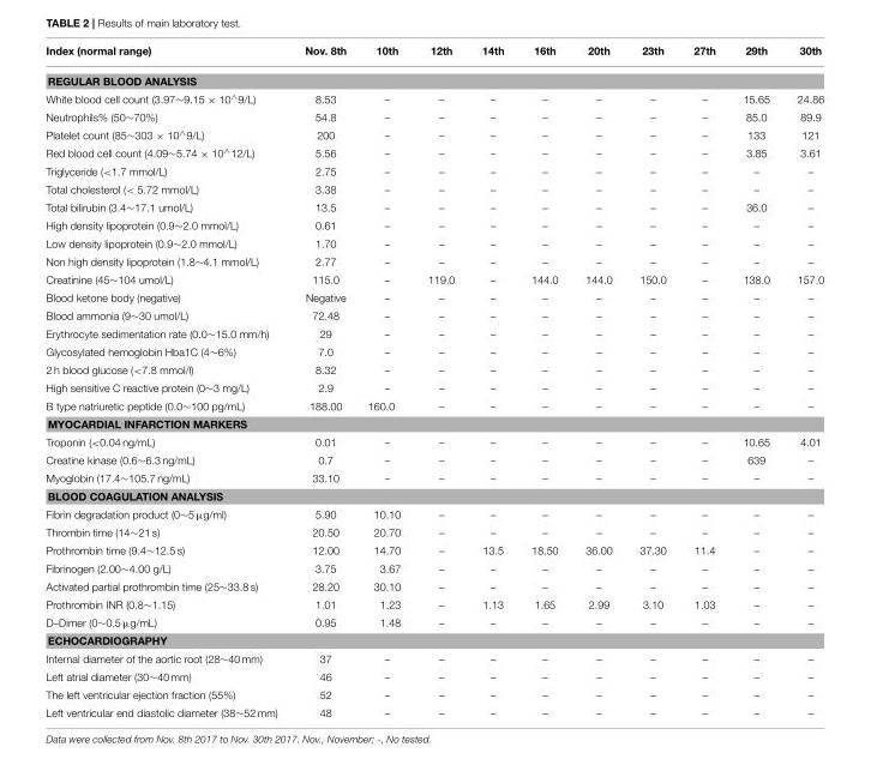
<table><thead><tr><td>Index (normal range)</td><td>Nov. 8th</td><td>10th</td><td>12th</td><td>14th</td><td>16th</td><td>20th</td><td>23th</td><td>27th</td><td>29th</td><td>30th</td></tr></thead><tbody><tr><td colspan="11">REGULAR BLOOD ANALYSIS</td></tr><tr><td>White blood cell count (3.97∼9.15 × 10∧9/L)</td><td>8.53</td><td>–</td><td>–</td><td>–</td><td>–</td><td>–</td><td>–</td><td>–</td><td>15.65</td><td>24.86</td></tr><tr><td>Neutrophils% (50∼70%)</td><td>54.8</td><td>–</td><td>–</td><td>–</td><td>–</td><td>–</td><td>–</td><td>–</td><td>85.0</td><td>89.9</td></tr><tr><td>Platelet count (85∼303 × 10∧9/L)</td><td>200</td><td>–</td><td>–</td><td>–</td><td>–</td><td>–</td><td>–</td><td>–</td><td>133</td><td>121</td></tr><tr><td>Red blood cell count (4.09∼5.74 × 10∧12/L)</td><td>5.56</td><td>–</td><td>–</td><td>–</td><td>–</td><td>–</td><td>–</td><td>–</td><td>3.85</td><td>3.61</td></tr><tr><td>Triglyceride (&lt;1.7 mmol/L)</td><td>2.75</td><td>–</td><td>–</td><td>–</td><td>–</td><td>–</td><td>–</td><td>–</td><td>–</td><td>–</td></tr><tr><td>Total cholesterol (&lt; 5.72 mmol/L)</td><td>3.38</td><td>–</td><td>–</td><td>–</td><td>–</td><td>–</td><td>–</td><td>–</td><td>–</td><td>–</td></tr><tr><td>Total bilirubin (3.4∼17.1 umol/L)</td><td>13.5</td><td>–</td><td>–</td><td>–</td><td>–</td><td>–</td><td>–</td><td>–</td><td>36.0</td><td>–</td></tr><tr><td>High density lipoprotein (0.9∼2.0 mmol/L)</td><td>0.61</td><td>–</td><td>–</td><td>–</td><td>–</td><td>–</td><td>–</td><td>–</td><td>–</td><td>–</td></tr><tr><td>Low density lipoprotein (0.9∼2.0 mmol/L)</td><td>1.70</td><td>–</td><td>–</td><td>–</td><td>–</td><td>–</td><td>–</td><td>–</td><td>–</td><td>–</td></tr><tr><td>Non high density lipoprotein (1.8∼4.1 mmol/L)</td><td>2.77</td><td>–</td><td>–</td><td>–</td><td>–</td><td>–</td><td>–</td><td>–</td><td>–</td><td>–</td></tr><tr><td>Creatinine (45∼104 umol/L)</td><td>115.0</td><td>–</td><td>119.0</td><td>–</td><td>144.0</td><td>144.0</td><td>150.0</td><td>–</td><td>138.0</td><td>157.0</td></tr><tr><td>Blood ketone body (negative)</td><td>Negative</td><td>–</td><td>–</td><td>–</td><td>–</td><td>–</td><td>–</td><td>–</td><td>–</td><td>–</td></tr><tr><td>Blood ammonia (9∼30 umol/L)</td><td>72.48</td><td>–</td><td>–</td><td>–</td><td>–</td><td>–</td><td>–</td><td>–</td><td>–</td><td>–</td></tr><tr><td>Erythrocyte sedimentation rate (0.0∼15.0 mm/h)</td><td>29</td><td>–</td><td>–</td><td>–</td><td>–</td><td>–</td><td>–</td><td>–</td><td>–</td><td>–</td></tr><tr><td>Glycosylated hemoglobin Hba1C (4∼6%)</td><td>7.0</td><td>–</td><td>–</td><td>–</td><td>–</td><td>–</td><td>–</td><td>–</td><td>–</td><td>–</td></tr><tr><td>2 h blood glucose (&lt;7.8 mmol/l)</td><td>8.32</td><td>–</td><td>–</td><td>–</td><td>–</td><td>–</td><td>–</td><td>–</td><td>–</td><td>–</td></tr><tr><td>High sensitive C reactive protein (0∼3 mg/L)</td><td>2.9</td><td>–</td><td>–</td><td>–</td><td>–</td><td>–</td><td>–</td><td>–</td><td>–</td><td>–</td></tr><tr><td>B type natriuretic peptide (0.0∼100 pg/mL)</td><td>188.00</td><td>160.0</td><td>–</td><td>–</td><td>–</td><td>–</td><td>–</td><td>–</td><td>–</td><td>–</td></tr><tr><td colspan="11">MYOCARDIAL INFARCTION MARKERS</td></tr><tr><td>Troponin (&lt;0.04 ng/mL)</td><td>0.01</td><td>–</td><td>–</td><td>–</td><td>–</td><td>–</td><td>–</td><td>–</td><td>10.65</td><td>4.01</td></tr><tr><td>Creatine kinase (0.6∼6.3 ng/mL)</td><td>0.7</td><td>–</td><td>–</td><td>–</td><td>–</td><td>–</td><td>–</td><td>–</td><td>639</td><td>–</td></tr><tr><td>Myoglobin (17.4∼105.7 ng/mL)</td><td>33.10</td><td>–</td><td>–</td><td>–</td><td>–</td><td>–</td><td>–</td><td>–</td><td>–</td><td>–</td></tr><tr><td colspan="11">BLOOD COAGULATION ANALYSIS</td></tr><tr><td>Fibrin degradation product (0∼5 µg/ml)</td><td>5.90</td><td>10.10</td><td>–</td><td>–</td><td>–</td><td>–</td><td>–</td><td>–</td><td>–</td><td>–</td></tr><tr><td>Thrombin time (14∼21 s)</td><td>20.50</td><td>20.70</td><td>–</td><td>–</td><td>–</td><td>–</td><td>–</td><td>–</td><td>–</td><td>–</td></tr><tr><td>Prothrombin time (9.4∼12.5 s)</td><td>12.00</td><td>14.70</td><td>–</td><td>13.5</td><td>18.50</td><td>36.00</td><td>37.30</td><td>11.4</td><td>–</td><td>–</td></tr><tr><td>Fibrinogen (2.00∼4.00 g/L)</td><td>3.75</td><td>3.67</td><td>–</td><td>–</td><td>–</td><td>–</td><td>–</td><td>–</td><td>–</td><td>–</td></tr><tr><td>Activated partial prothrombin time (25∼33.8 s)</td><td>28.20</td><td>30.10</td><td>–</td><td>–</td><td>–</td><td>–</td><td>–</td><td>–</td><td>–</td><td>–</td></tr><tr><td>Prothrombin INR (0.8∼1.15)</td><td>1.01</td><td>1.23</td><td>–</td><td>1.13</td><td>1.65</td><td>2.99</td><td>3.10</td><td>1.03</td><td>–</td><td>–</td></tr><tr><td>D–Dimer (0∼0.5 µg/mL)</td><td>0.95</td><td>1.48</td><td>–</td><td>–</td><td>–</td><td>–</td><td>–</td><td>–</td><td>–</td><td>–</td></tr><tr><td colspan="11">ECHOCARDIOGRAPHY</td></tr><tr><td>Internal diameter of the aortic root (28∼40 mm)</td><td>37</td><td>–</td><td>–</td><td>–</td><td>–</td><td>–</td><td>–</td><td>–</td><td>–</td><td>–</td></tr><tr><td>Left atrial diameter (30∼40 mm)</td><td>46</td><td>–</td><td>–</td><td>–</td><td>–</td><td>–</td><td>–</td><td>–</td><td>–</td><td>–</td></tr><tr><td>The left ventricular ejection fraction (55%)</td><td>52</td><td>–</td><td>–</td><td>–</td><td>–</td><td>–</td><td>–</td><td>–</td><td>–</td><td>–</td></tr><tr><td>Left ventricular end diastolic diameter (38∼52 mm)</td><td>48</td><td>–</td><td>–</td><td>–</td><td>–</td><td>–</td><td>–</td><td>–</td><td>–</td><td>–</td></tr></tbody></table>